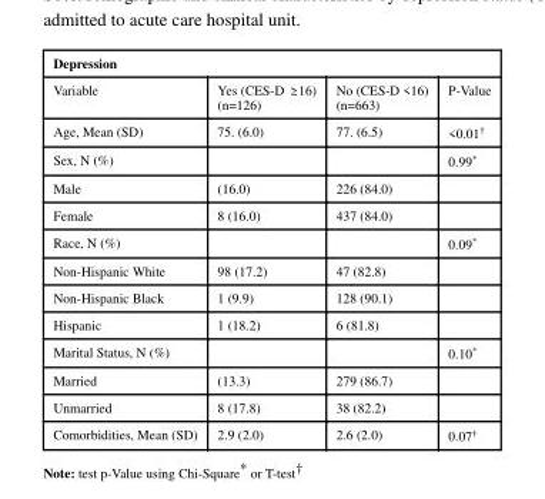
<table><thead><tr><td colspan="4">Depression</td></tr><tr><td>Variable</td><td>Yes (CES-D ≥ 16) (n=126)</td><td>No (CES-D &lt;16) (n=663)</td><td>P-Value</td></tr></thead><tbody><tr><td>Age, Mean (SD)</td><td>75. (6.0)</td><td>77. (6.5)</td><td>&lt;0.01<sup>†</sup></td></tr><tr><td>Sex, N (%)</td><td></td><td></td><td>0.99*</td></tr><tr><td>Male</td><td>(16.0)</td><td>226 (84.0)</td><td></td></tr><tr><td>Female</td><td>8 (16.0)</td><td>437 (84.0)</td><td></td></tr><tr><td>Race, N (%)</td><td></td><td></td><td>0.09*</td></tr><tr><td>Non-Hispanic White</td><td>98 (17.2)</td><td>47 (82.8)</td><td></td></tr><tr><td>Non-Hispanic Black</td><td>1 (9.9)</td><td>128 (90.1)</td><td></td></tr><tr><td>Hispanic</td><td>1 (18.2)</td><td>6 (81.8)</td><td></td></tr><tr><td>Marital Status, N (%)</td><td></td><td></td><td>0.10*</td></tr><tr><td>Married</td><td>(13.3)</td><td>279 (86.7)</td><td></td></tr><tr><td>Unmarried</td><td>8 (17.8)</td><td>38 (82.2)</td><td></td></tr><tr><td>Comorbidities, Mean (SD)</td><td>2.9 (2.0)</td><td>2.6 (2.0)</td><td>0.07<sup>†</sup></td></tr></tbody></table>